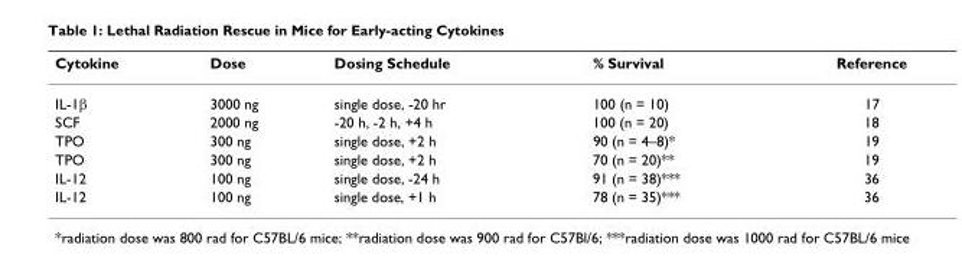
<table><thead><tr><td>Cytokine</td><td>Dose</td><td>Dosing Schedule</td><td>% Survival</td><td>Reference</td></tr></thead><tbody><tr><td>IL-1β</td><td>3000 ng</td><td>single dose, -20 hr</td><td>100 (n = 10)</td><td>17</td></tr><tr><td>SCF</td><td>2000 ng</td><td>-20 h, -2 h, +4 h</td><td>100 (n = 20)</td><td>18</td></tr><tr><td>TPO</td><td>300 ng</td><td>single dose, +2 h</td><td>90 (n = 4–8)*</td><td>19</td></tr><tr><td>TPO</td><td>300 ng</td><td>single dose, +2 h</td><td>70 (n = 20)**</td><td>19</td></tr><tr><td>IL-12</td><td>100 ng</td><td>single dose, -24 h</td><td>91 (n = 38)***</td><td>36</td></tr><tr><td>IL-12</td><td>100 ng</td><td>single dose, +1 h</td><td>78 (n = 35)***</td><td>36</td></tr></tbody></table>